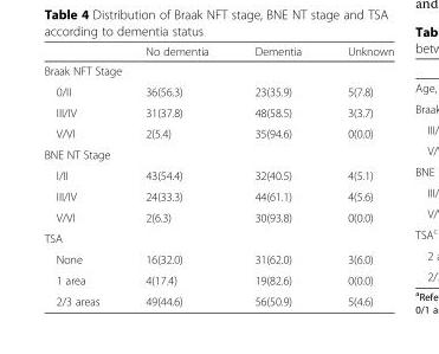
<table><thead><tr><td></td><td>No dementia</td><td>Dementia</td><td>Unknown</td></tr></thead><tbody><tr><td colspan="4">Braak NFT Stage</td></tr><tr><td>0/II</td><td>36(56.3)</td><td>23(35.9)</td><td>5(7.8)</td></tr><tr><td>III/IV</td><td>31(37.8)</td><td>48(58.5)</td><td>3(3.7)</td></tr><tr><td>V/VI</td><td>2(5.4)</td><td>35(94.6)</td><td>0(0.0)</td></tr><tr><td colspan="4">BNE NT Stage</td></tr><tr><td>I/II</td><td>43(54.4)</td><td>32(40.5)</td><td>4(5.1)</td></tr><tr><td>III/IV</td><td>24(33.3)</td><td>44(61.1)</td><td>4(5.6)</td></tr><tr><td>V/VI</td><td>2(6.3)</td><td>30(93.8)</td><td>0(0.0)</td></tr><tr><td colspan="4">TSA</td></tr><tr><td>None</td><td>16(32.0)</td><td>31(62.0)</td><td>3(6.0)</td></tr><tr><td>1 area</td><td>4(17.4)</td><td>19(82.6)</td><td>0(0.0)</td></tr><tr><td>2/3 areas</td><td>49(44.6)</td><td>56(50.9)</td><td>5(4.6)</td></tr></tbody></table>